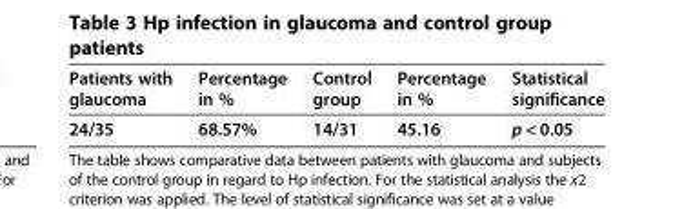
<table><thead><tr><td>Patients with glaucoma</td><td>Percentage in %</td><td>Control group</td><td>Percentage in %</td><td>Statistical significance</td></tr></thead><tbody><tr><td>24/35</td><td>68.57%</td><td>14/31</td><td>45.16</td><td>p &lt; 0.05</td></tr></tbody></table>